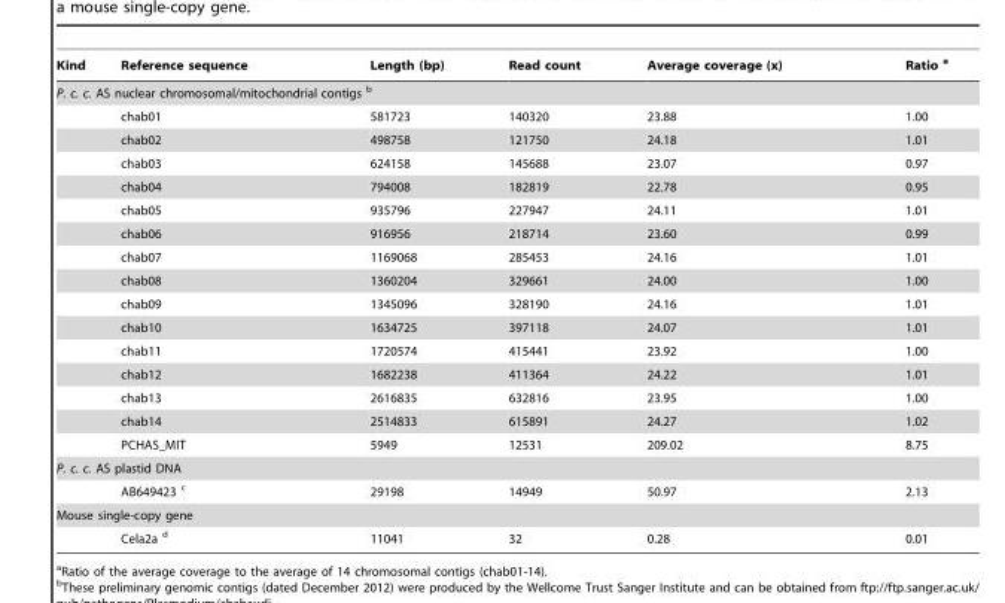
<table><thead><tr><td>Kind</td><td>Reference sequence</td><td>Length (bp)</td><td>Read count</td><td>Average coverage (x)</td><td>Ratio a</td></tr></thead><tbody><tr><td colspan="6">P. c. c. AS nuclear chromosomal/mitochondrial contigs b</td></tr><tr><td></td><td>chab01</td><td>581723</td><td>140320</td><td>23.88</td><td>1.00</td></tr><tr><td></td><td>chab02</td><td>498758</td><td>121750</td><td>24.18</td><td>1.01</td></tr><tr><td></td><td>chab03</td><td>624158</td><td>145688</td><td>23.07</td><td>0.97</td></tr><tr><td></td><td>chab04</td><td>794008</td><td>182819</td><td>22.78</td><td>0.95</td></tr><tr><td></td><td>chab05</td><td>935796</td><td>227947</td><td>24.11</td><td>1.01</td></tr><tr><td></td><td>chab06</td><td>916956</td><td>218714</td><td>23.60</td><td>0.99</td></tr><tr><td></td><td>chab07</td><td>1169068</td><td>285453</td><td>24.16</td><td>1.01</td></tr><tr><td></td><td>chab08</td><td>1360204</td><td>329661</td><td>24.00</td><td>1.00</td></tr><tr><td></td><td>chab09</td><td>1345096</td><td>328190</td><td>24.16</td><td>1.01</td></tr><tr><td></td><td>chab10</td><td>1634725</td><td>397118</td><td>24.07</td><td>1.01</td></tr><tr><td></td><td>chab11</td><td>1720574</td><td>415441</td><td>23.92</td><td>1.00</td></tr><tr><td></td><td>chab12</td><td>1682238</td><td>411364</td><td>24.22</td><td>1.01</td></tr><tr><td></td><td>chab13</td><td>2616835</td><td>632816</td><td>23.95</td><td>1.00</td></tr><tr><td></td><td>chab14</td><td>2514833</td><td>615891</td><td>24.27</td><td>1.02</td></tr><tr><td></td><td>PCHAS_MIT</td><td>5949</td><td>12531</td><td>209.02</td><td>8.75</td></tr><tr><td colspan="6">P. c. c. AS plastid DNA</td></tr><tr><td></td><td>AB649423 c</td><td>29198</td><td>14949</td><td>50.97</td><td>2.13</td></tr><tr><td colspan="6">Mouse single-copy gene</td></tr><tr><td></td><td>Cela2a d</td><td>11041</td><td>32</td><td>0.28</td><td>0.01</td></tr></tbody></table>